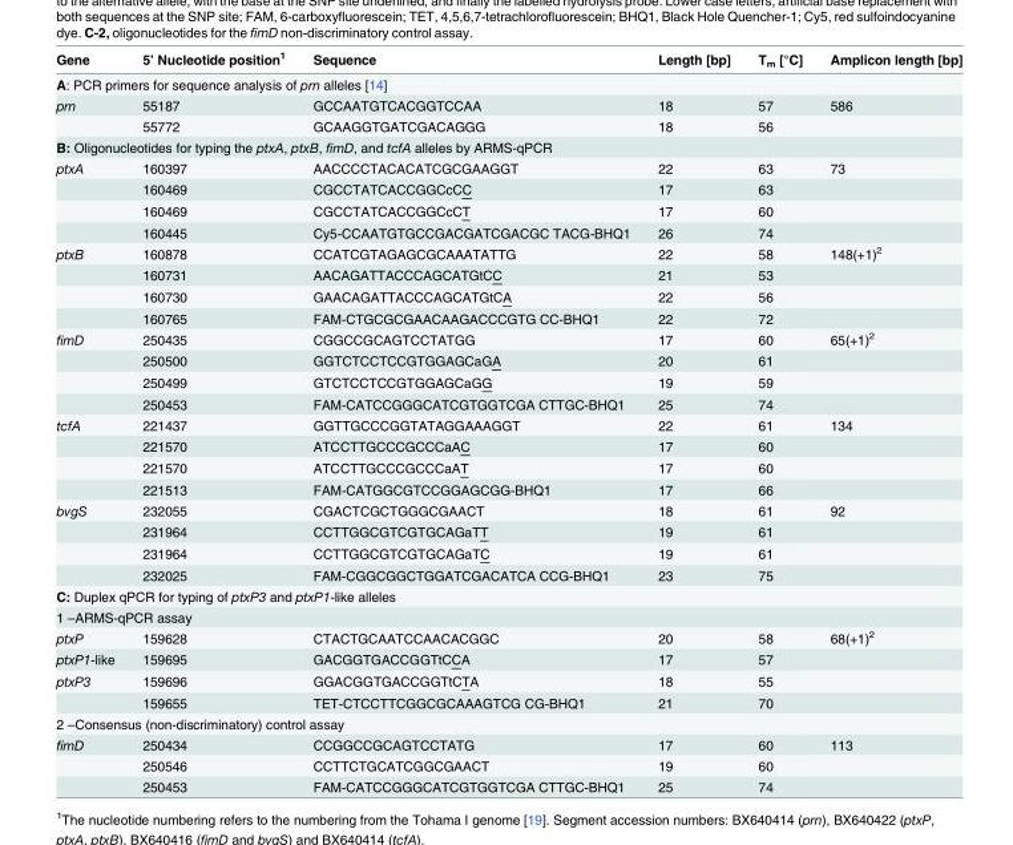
<table><thead><tr><td>Gene</td><td>5’ Nucleotide position<sup>1</sup></td><td>Sequence</td><td>Length [bp]</td><td>T<sub>m</sub> [°C]</td><td>Amplicon length [bp]</td></tr></thead><tbody><tr><td colspan="6">A: PCR primers for sequence analysis of prn alleles [14]</td></tr><tr><td rowspan="2">prn</td><td>55187</td><td>GCCAATGTCACGGTCCAA</td><td>18</td><td>57</td><td>586</td></tr><tr><td>55772</td><td>GCAAGGTGATCGACAGGG</td><td>18</td><td>56</td><td></td></tr><tr><td colspan="6">B: Oligonucleotides for typing the ptxA, ptxB, fimD, and tcfA alleles by ARMS-qPCR</td></tr><tr><td rowspan="4">ptxA</td><td>160397</td><td>AACCCCTACACATCGCGAAGGT</td><td>22</td><td>63</td><td>73</td></tr><tr><td>160469</td><td>CGCCTATCACCGGCcCC</td><td>17</td><td>63</td><td></td></tr><tr><td>160469</td><td>CGCCTATCACCGGCcCT</td><td>17</td><td>60</td><td></td></tr><tr><td>160445</td><td>Cy5-CCAATGTGCCGACGATCGACGC TACG-BHQ1</td><td>26</td><td>74</td><td></td></tr><tr><td rowspan="4">ptxB</td><td>160878</td><td>CCATCGTAGAGCGCAAATATTG</td><td>22</td><td>58</td><td>148(+1)<sup>2</sup></td></tr><tr><td>160731</td><td>AACAGATTACCCAGCATGtCC</td><td>21</td><td>53</td><td></td></tr><tr><td>160730</td><td>GAACAGATTACCCAGCATGtCA</td><td>22</td><td>56</td><td></td></tr><tr><td>160765</td><td>FAM-CTGCGCGAACAAGACCCGTG CC-BHQ1</td><td>22</td><td>72</td><td></td></tr><tr><td rowspan="4">fimD</td><td>250435</td><td>CGGCCGCAGTCCTATGG</td><td>17</td><td>60</td><td>65(+1)<sup>2</sup></td></tr><tr><td>250500</td><td>GGTCTCCTCCGTGGAGCaGA</td><td>20</td><td>61</td><td></td></tr><tr><td>250499</td><td>GTCTCCTCCGTGGAGCaGG</td><td>19</td><td>59</td><td></td></tr><tr><td>250453</td><td>FAM-CATCCGGGCATCGTGGTCGA CTTGC-BHQ1</td><td>25</td><td>74</td><td></td></tr><tr><td rowspan="4">tcfA</td><td>221437</td><td>GGTTGCCCGGTATAGGAAAGGT</td><td>22</td><td>61</td><td>134</td></tr><tr><td>221570</td><td>ATCCTTGCCCGCCCaAC</td><td>17</td><td>60</td><td></td></tr><tr><td>221570</td><td>ATCCTTGCCCGCCCaAT</td><td>17</td><td>60</td><td></td></tr><tr><td>221513</td><td>FAM-CATGGCGTCCGGAGCGG-BHQ1</td><td>17</td><td>66</td><td></td></tr><tr><td rowspan="4">bvgS</td><td>232055</td><td>CGACTCGCTGGGCGAACT</td><td>18</td><td>61</td><td>92</td></tr><tr><td>231964</td><td>CCTTGGCGTCGTGCAGaTT</td><td>19</td><td>61</td><td></td></tr><tr><td>231964</td><td>CCTTGGCGTCGTGCAGaTC</td><td>19</td><td>61</td><td></td></tr><tr><td>232025</td><td>FAM-CGGCGGCTGGATCGACATCA CCG-BHQ1</td><td>23</td><td>75</td><td></td></tr><tr><td colspan="6">C: Duplex qPCR for typing of ptxP3 and ptxP1-like alleles</td></tr><tr><td colspan="6">1 –ARMS-qPCR assay</td></tr><tr><td>ptxP</td><td>159628</td><td>CTACTGCAATCCAACACGGC</td><td>20</td><td>58</td><td>68(+1)<sup>2</sup></td></tr><tr><td>ptxP1-like</td><td>159695</td><td>GACGGTGACCGGTtCCA</td><td>17</td><td>57</td><td></td></tr><tr><td rowspan="2">ptxP3</td><td>159696</td><td>GGACGGTGACCGGTtCTA</td><td>18</td><td>55</td><td></td></tr><tr><td>159655</td><td>TET-CTCCTTCGGCGCAAAGTCG CG-BHQ1</td><td>21</td><td>70</td><td></td></tr><tr><td colspan="6">2 –Consensus (non-discriminatory) control assay</td></tr><tr><td rowspan="3">fimD</td><td>250434</td><td>CCGGCCGCAGTCCTATG</td><td>17</td><td>60</td><td>113</td></tr><tr><td>250546</td><td>CCTTCTGCATCGGCGAACT</td><td>19</td><td>60</td><td></td></tr><tr><td>250453</td><td>FAM-CATCCGGGCATCGTGGTCGA CTTGC-BHQ1</td><td>25</td><td>74</td><td></td></tr></tbody></table>